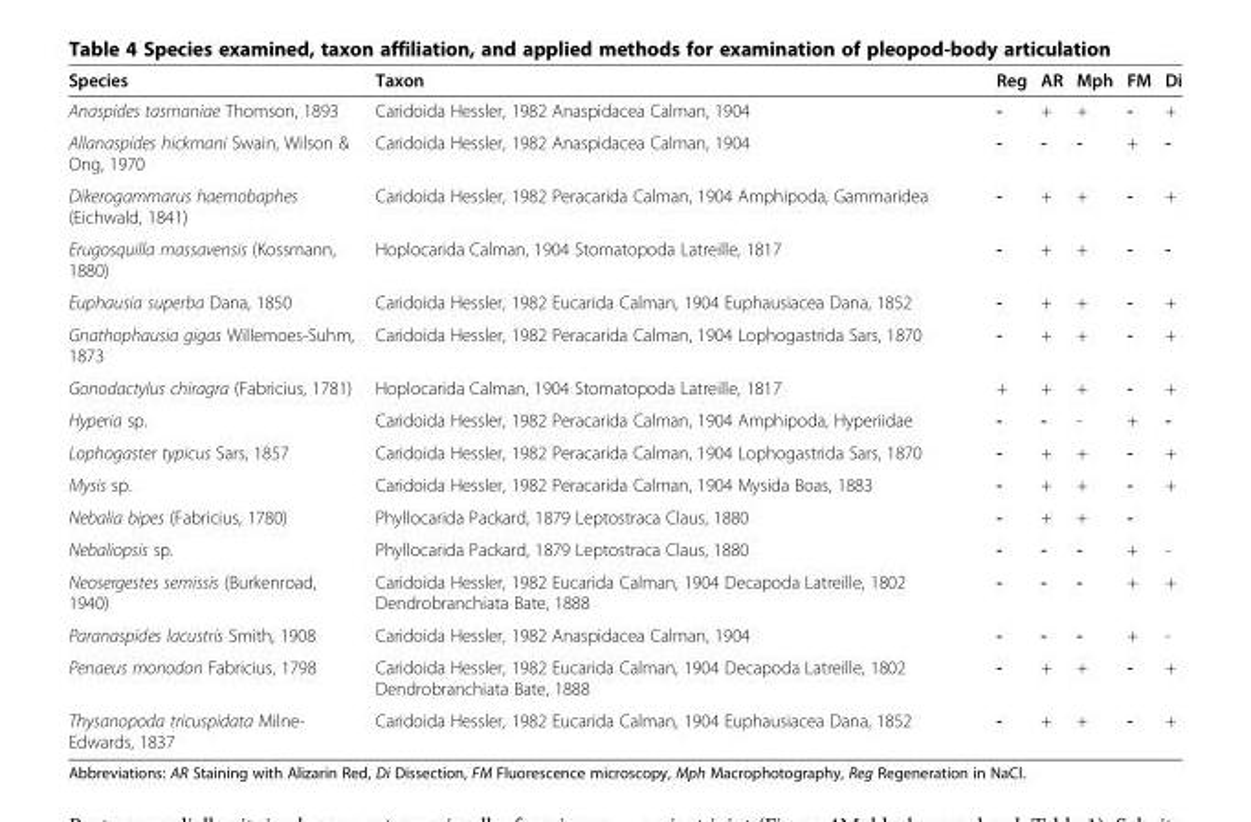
<table><thead><tr><td>Species</td><td>Taxon</td><td>Reg</td><td>AR</td><td>Mph</td><td>FM</td><td>Di</td></tr></thead><tbody><tr><td>Anaspides tasmaniae Thomson, 1893</td><td>Caridoida Hessler, 1982 Anaspidacea Calman, 1904</td><td>-</td><td>+</td><td>+</td><td>-</td><td>+</td></tr><tr><td>Allanaspides hickmani Swain, Wilson &amp; Ong, 1970</td><td>Caridoida Hessler, 1982 Anaspidacea Calman, 1904</td><td>-</td><td>-</td><td>-</td><td>+</td><td>-</td></tr><tr><td>Dikerogammarus haemobaphes (Eichwald, 1841)</td><td>Caridoida Hessler, 1982 Peracarida Calman, 1904 Amphipoda, Gammaridea</td><td>-</td><td>+</td><td>+</td><td>-</td><td>+</td></tr><tr><td>Erugosquilla massavensis (Kossmann, 1880)</td><td>Hoplocarida Calman, 1904 Stomatopoda Latreille, 1817</td><td>-</td><td>+</td><td>+</td><td>-</td><td>-</td></tr><tr><td>Euphausia superba Dana, 1850</td><td>Caridoida Hessler, 1982 Eucarida Calman, 1904 Euphausiacea Dana, 1852</td><td>-</td><td>+</td><td>+</td><td>-</td><td>+</td></tr><tr><td>Gnathophausia gigas Willemoes-Suhm, 1873</td><td>Caridoida Hessler, 1982 Peracarida Calman, 1904 Lophogastrida Sars, 1870</td><td>-</td><td>+</td><td>+</td><td>-</td><td>+</td></tr><tr><td>Gonodactylus chiragra (Fabricius, 1781)</td><td>Hoplocarida Calman, 1904 Stomatopoda Latreille, 1817</td><td>+</td><td>+</td><td>+</td><td>-</td><td>+</td></tr><tr><td>Hyperia sp.</td><td>Caridoida Hessler, 1982 Peracarida Calman, 1904 Amphipoda, Hyperiidae</td><td>-</td><td>-</td><td>-</td><td>+</td><td>-</td></tr><tr><td>Lophogaster typicus Sars, 1857</td><td>Caridoida Hessler, 1982 Peracarida Calman, 1904 Lophogastrida Sars, 1870</td><td>-</td><td>+</td><td>+</td><td>-</td><td>+</td></tr><tr><td>Mysis sp.</td><td>Caridoida Hessler, 1982 Peracarida Calman, 1904 Mysida Boas, 1883</td><td>-</td><td>+</td><td>+</td><td>-</td><td>+</td></tr><tr><td>Nebalia bipes (Fabricius, 1780)</td><td>Phyllocarida Packard, 1879 Leptostraca Claus, 1880</td><td>-</td><td>+</td><td>+</td><td>-</td><td></td></tr><tr><td>Nebaliopsis sp.</td><td>Phyllocarida Packard, 1879 Leptostraca Claus, 1880</td><td>-</td><td>-</td><td>-</td><td>+</td><td>-</td></tr><tr><td>Neosergestes semissis (Burkenroad, 1940)</td><td>Caridoida Hessler, 1982 Eucarida Calman, 1904 Decapoda Latreille, 1802 Dendrobranchiata Bate, 1888</td><td>-</td><td>-</td><td>-</td><td>+</td><td>+</td></tr><tr><td>Paranaspides lacustris Smith, 1908</td><td>Caridoida Hessler, 1982 Anaspidacea Calman, 1904</td><td>-</td><td>-</td><td>-</td><td>+</td><td>-</td></tr><tr><td>Penaeus monodon Fabricius, 1798</td><td>Caridoida Hessler, 1982 Eucarida Calman, 1904 Decapoda Latreille, 1802 Dendrobranchiata Bate, 1888</td><td>-</td><td>+</td><td>+</td><td>-</td><td>+</td></tr><tr><td>Thysanopoda tricuspidata Milne- Edwards, 1837</td><td>Caridoida Hessler, 1982 Eucarida Calman, 1904 Euphausiacea Dana, 1852</td><td>-</td><td>+</td><td>+</td><td>-</td><td>+</td></tr></tbody></table>